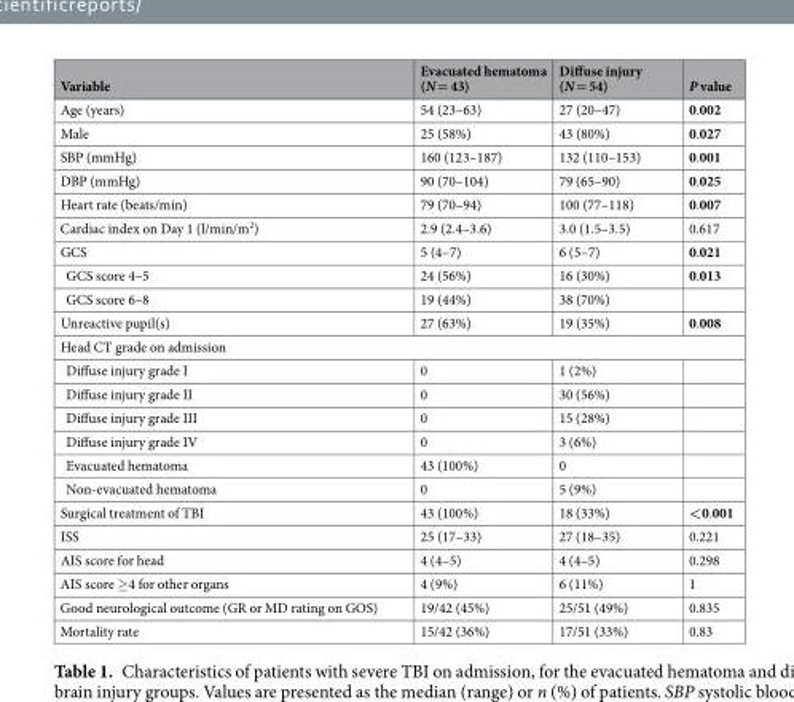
<table><thead><tr><td>Variable</td><td>Evacuated hematoma (N = 43)</td><td>Diffuse injury (N = 54)</td><td>P value</td></tr></thead><tbody><tr><td>Age (years)</td><td>54 (23–63)</td><td>27 (20–47)</td><td>0.002</td></tr><tr><td>Male</td><td>25 (58%)</td><td>43 (80%)</td><td>0.027</td></tr><tr><td>SBP (mmHg)</td><td>160 (123–187)</td><td>132 (110–153)</td><td>0.001</td></tr><tr><td>DBP (mmHg)</td><td>90 (70–104)</td><td>79 (65–90)</td><td>0.025</td></tr><tr><td>Heart rate (beats/min)</td><td>79 (70–94)</td><td>100 (77–118)</td><td>0.007</td></tr><tr><td>Cardiac index on Day 1 (l/min/m<sup>2</sup>)</td><td>2.9 (2.4–3.6)</td><td>3.0 (1.5–3.5)</td><td>0.617</td></tr><tr><td>GCS</td><td>5 (4–7)</td><td>6 (5–7)</td><td>0.021</td></tr><tr><td>GCS score 4–5</td><td>24 (56%)</td><td>16 (30%)</td><td>0.013</td></tr><tr><td>GCS score 6–8</td><td>19 (44%)</td><td>38 (70%)</td><td></td></tr><tr><td>Unreactive pupil(s)</td><td>27 (63%)</td><td>19 (35%)</td><td>0.008</td></tr><tr><td colspan="4">Head CT grade on admission</td></tr><tr><td>Diffuse injury grade I</td><td>0</td><td>1 (2%)</td><td></td></tr><tr><td>Diffuse injury grade II</td><td>0</td><td>30 (56%)</td><td></td></tr><tr><td>Diffuse injury grade III</td><td>0</td><td>15 (28%)</td><td></td></tr><tr><td>Diffuse injury grade IV</td><td>0</td><td>3 (6%)</td><td></td></tr><tr><td>Evacuated hematoma</td><td>43 (100%)</td><td>0</td><td></td></tr><tr><td>Non-evacuated hematoma</td><td>0</td><td>5 (9%)</td><td></td></tr><tr><td>Surgical treatment of TBI</td><td>43 (100%)</td><td>18 (33%)</td><td>&lt;0.001</td></tr><tr><td>ISS</td><td>25 (17–33)</td><td>27 (18–35)</td><td>0.221</td></tr><tr><td>AIS score for head</td><td>4 (4–5)</td><td>4 (4–5)</td><td>0.298</td></tr><tr><td>AIS score ≥4 for other organs</td><td>4 (9%)</td><td>6 (11%)</td><td>1</td></tr><tr><td>Good neurological outcome (GR or MD rating on GOS)</td><td>19/42 (45%)</td><td>25/51 (49%)</td><td>0.835</td></tr><tr><td>Mortality rate</td><td>15/42 (36%)</td><td>17/51 (33%)</td><td>0.83</td></tr></tbody></table>